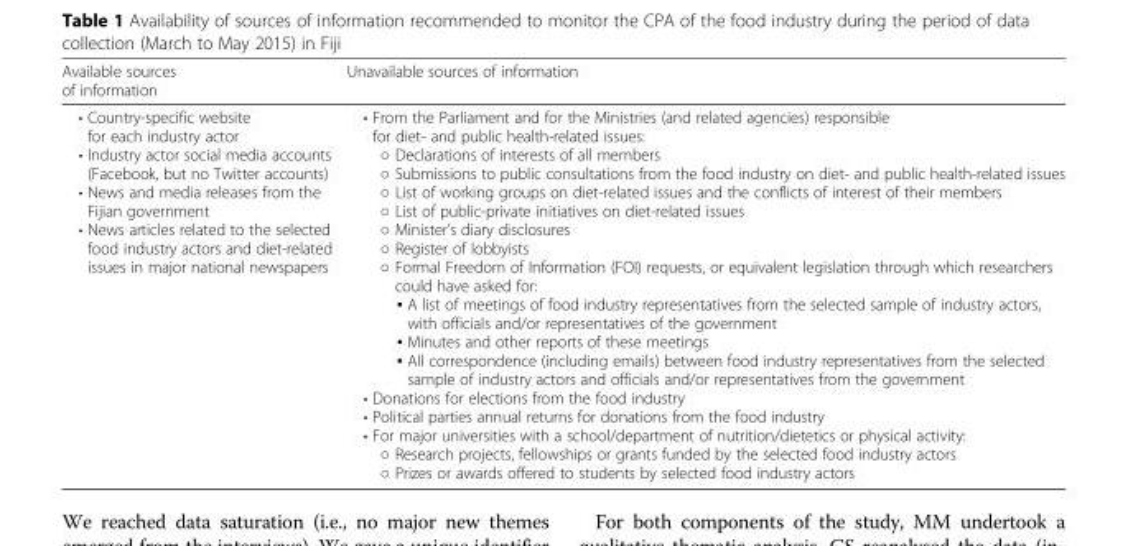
<table><thead><tr><td>Available sources of information</td><td>Unavailable sources of information</td></tr></thead><tbody><tr><td>• Country-specific website for each industry actor • Industry actor social media accounts (Facebook, but no Twitter accounts) • News and media releases from the Fijian government • News articles related to the selected food industry actors and diet-related issues in major national newspapers</td><td>• From the Parliament and for the Ministries (and related agencies) responsible for diet- and public health-related issues: ○ Declarations of interests of all members ○ Submissions to public consultations from the food industry on diet- and public health-related issues ○ List of working groups on diet-related issues and the conflicts of interest of their members ○ List of public-private initiatives on diet-related issues ○ Minister’s diary disclosures ○ Register of lobbyists ○ Formal Freedom of Information (FOI) requests, or equivalent legislation through which researchers could have asked for: ▪ A list of meetings of food industry representatives from the selected sample of industry actors, with officials and/or representatives of the government ▪ Minutes and other reports of these meetings ▪ All correspondence (including emails) between food industry representatives from the selected sample of industry actors and officials and/or representatives from the government • Donations for elections from the food industry • Political parties annual returns for donations from the food industry • For major universities with a school/department of nutrition/dietetics or physical activity: ○ Research projects, fellowships or grants funded by the selected food industry actors ○ Prizes or awards offered to students by selected food industry actors</td></tr></tbody></table>